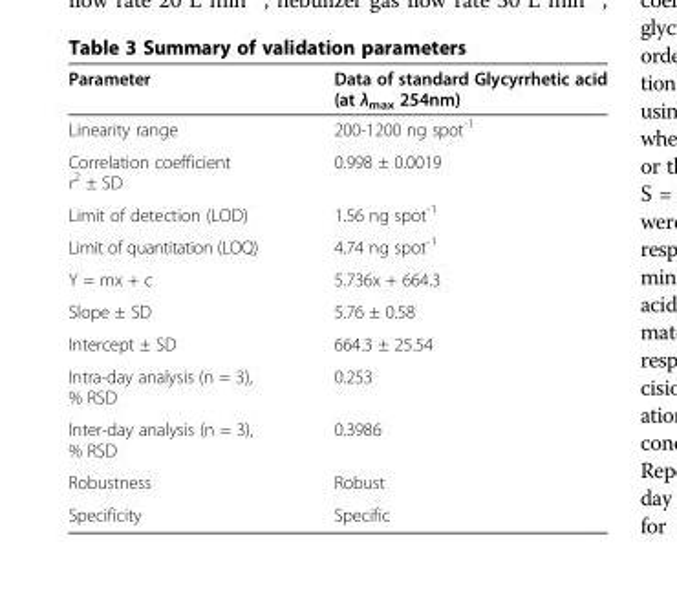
<table><thead><tr><td>Parameter</td><td>Data of standard Glycyrrhetic acid (at λ<sub>max</sub> 254nm)</td></tr></thead><tbody><tr><td>Linearity range</td><td>200-1200 ng spot<sup>-1</sup></td></tr><tr><td>Correlation coefficient r<sup>2</sup> ± SD</td><td>0.998 ± 0.0019</td></tr><tr><td>Limit of detection (LOD)</td><td>1.56 ng spot<sup>-1</sup></td></tr><tr><td>Limit of quantitation (LOQ)</td><td>4.74 ng spot<sup>-1</sup></td></tr><tr><td>Y = mx + c</td><td>5.736x + 664.3</td></tr><tr><td>Slope ± SD</td><td>5.76 ± 0.58</td></tr><tr><td>Intercept ± SD</td><td>664.3 ± 25.54</td></tr><tr><td>Intra-day analysis (n = 3), % RSD</td><td>0.253</td></tr><tr><td>Inter-day analysis (n = 3), % RSD</td><td>0.3986</td></tr><tr><td>Robustness</td><td>Robust</td></tr><tr><td>Specificity</td><td>Specific</td></tr></tbody></table>